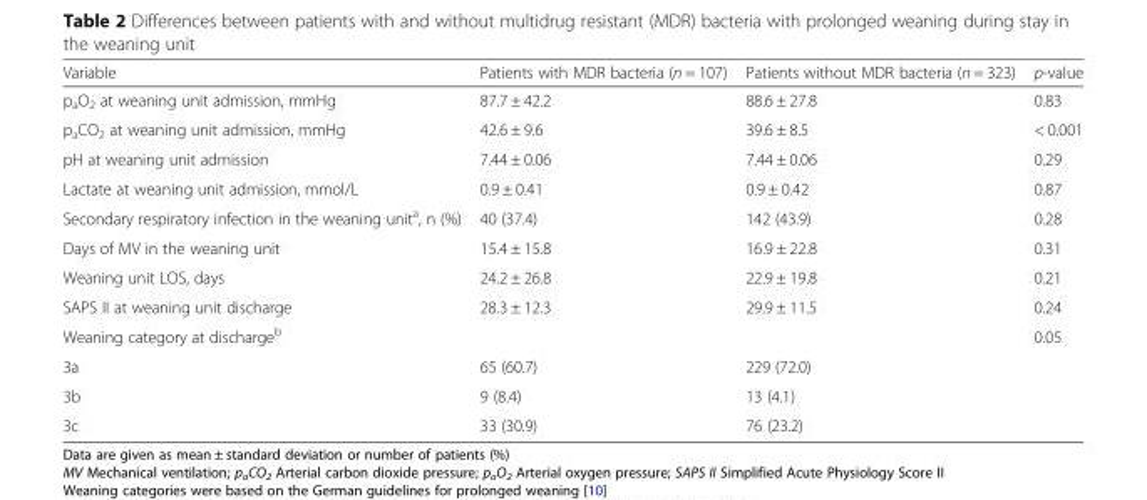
<table><thead><tr><td>Variable</td><td>Patients with MDR bacteria (n = 107)</td><td>Patients without MDR bacteria (n = 323)</td><td>p-value</td></tr></thead><tbody><tr><td>p<sub>a</sub>O<sub>2</sub> at weaning unit admission, mmHg</td><td>87.7 ± 42.2</td><td>88.6 ± 27.8</td><td>0.83</td></tr><tr><td>p<sub>a</sub>CO<sub>2</sub> at weaning unit admission, mmHg</td><td>42.6 ± 9.6</td><td>39.6 ± 8.5</td><td>&lt; 0.001</td></tr><tr><td>pH at weaning unit admission</td><td>7.44 ± 0.06</td><td>7.44 ± 0.06</td><td>0.29</td></tr><tr><td>Lactate at weaning unit admission, mmol/L</td><td>0.9 ± 0.41</td><td>0.9 ± 0.42</td><td>0.87</td></tr><tr><td>Secondary respiratory infection in the weaning unit<sup>a</sup>, n (%)</td><td>40 (37.4)</td><td>142 (43.9)</td><td>0.28</td></tr><tr><td>Days of MV in the weaning unit</td><td>15.4 ± 15.8</td><td>16.9 ± 22.8</td><td>0.31</td></tr><tr><td>Weaning unit LOS, days</td><td>24.2 ± 26.8</td><td>22.9 ± 19.8</td><td>0.21</td></tr><tr><td>SAPS II at weaning unit discharge</td><td>28.3 ± 12.3</td><td>29.9 ± 11.5</td><td>0.24</td></tr><tr><td>Weaning category at discharge<sup>b</sup></td><td></td><td></td><td>0.05</td></tr><tr><td>3a</td><td>65 (60.7)</td><td>229 (72.0)</td><td></td></tr><tr><td>3b</td><td>9 (8.4)</td><td>13 (4.1)</td><td></td></tr><tr><td>3c</td><td>33 (30.9)</td><td>76 (23.2)</td><td></td></tr></tbody></table>